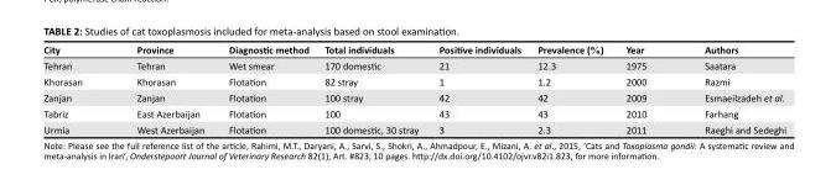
<table><thead><tr><td>City</td><td>Province</td><td>Diagnostic method</td><td>Total individuals</td><td>Positive individuals</td><td>Prevalence (%)</td><td>Year</td><td>Authors</td></tr></thead><tbody><tr><td>Tehran</td><td>Tehran</td><td>Wet smear</td><td>170 domestic</td><td>21</td><td>12.3</td><td>1975</td><td>Saatara</td></tr><tr><td>Khorasan</td><td>Khorasan</td><td>Flotation</td><td>82 stray</td><td>1</td><td>1.2</td><td>2000</td><td>Razmi</td></tr><tr><td>Zanjan</td><td>Zanjan</td><td>Flotation</td><td>100 stray</td><td>42</td><td>42</td><td>2009</td><td>Esmaeilzadeh et al.</td></tr><tr><td>Tabriz</td><td>East Azerbaijan</td><td>Flotation</td><td>100</td><td>43</td><td>43</td><td>2010</td><td>Farhang</td></tr><tr><td>Urmia</td><td>West Azerbaijan</td><td>Flotation</td><td>100 domestic, 30 stray</td><td>3</td><td>2.3</td><td>2011</td><td>Raeghi and Sedeghi</td></tr></tbody></table>